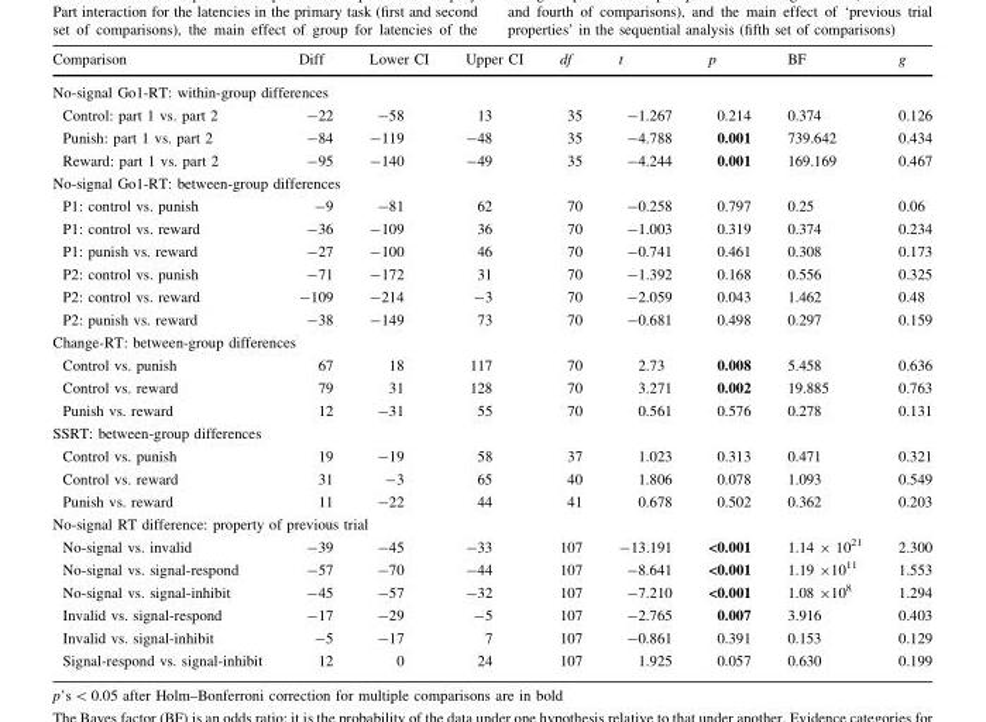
<table><thead><tr><td>Comparison</td><td>Diff</td><td>Lower CI</td><td>Upper CI</td><td>df</td><td>t</td><td>p</td><td>BF</td><td>g</td></tr></thead><tbody><tr><td colspan="9">No-signal Go1-RT: within-group differences</td></tr><tr><td>Control: part 1 vs. part 2</td><td>-22</td><td>-58</td><td>13</td><td>35</td><td>-1.267</td><td>0.214</td><td>0.374</td><td>0.126</td></tr><tr><td>Punish: part 1 vs. part 2</td><td>-84</td><td>-119</td><td>-48</td><td>35</td><td>-4.788</td><td>0.001</td><td>739.642</td><td>0.434</td></tr><tr><td>Reward: part 1 vs. part 2</td><td>-95</td><td>-140</td><td>-49</td><td>35</td><td>-4.244</td><td>0.001</td><td>169.169</td><td>0.467</td></tr><tr><td colspan="9">No-signal Go1-RT: between-group differences</td></tr><tr><td>P1: control vs. punish</td><td>-9</td><td>-81</td><td>62</td><td>70</td><td>-0.258</td><td>0.797</td><td>0.25</td><td>0.06</td></tr><tr><td>P1: control vs. reward</td><td>-36</td><td>-109</td><td>36</td><td>70</td><td>-1.003</td><td>0.319</td><td>0.374</td><td>0.234</td></tr><tr><td>P1: punish vs. reward</td><td>-27</td><td>-100</td><td>46</td><td>70</td><td>-0.741</td><td>0.461</td><td>0.308</td><td>0.173</td></tr><tr><td>P2: control vs. punish</td><td>-71</td><td>-172</td><td>31</td><td>70</td><td>-1.392</td><td>0.168</td><td>0.556</td><td>0.325</td></tr><tr><td>P2: control vs. reward</td><td>-109</td><td>-214</td><td>-3</td><td>70</td><td>-2.059</td><td>0.043</td><td>1.462</td><td>0.48</td></tr><tr><td>P2: punish vs. reward</td><td>-38</td><td>-149</td><td>73</td><td>70</td><td>-0.681</td><td>0.498</td><td>0.297</td><td>0.159</td></tr><tr><td colspan="9">Change-RT: between-group differences</td></tr><tr><td>Control vs. punish</td><td>67</td><td>18</td><td>117</td><td>70</td><td>2.73</td><td>0.008</td><td>5.458</td><td>0.636</td></tr><tr><td>Control vs. reward</td><td>79</td><td>31</td><td>128</td><td>70</td><td>3.271</td><td>0.002</td><td>19.885</td><td>0.763</td></tr><tr><td>Punish vs. reward</td><td>12</td><td>-31</td><td>55</td><td>70</td><td>0.561</td><td>0.576</td><td>0.278</td><td>0.131</td></tr><tr><td colspan="9">SSRT: between-group differences</td></tr><tr><td>Control vs. punish</td><td>19</td><td>-19</td><td>58</td><td>37</td><td>1.023</td><td>0.313</td><td>0.471</td><td>0.321</td></tr><tr><td>Control vs. reward</td><td>31</td><td>-3</td><td>65</td><td>40</td><td>1.806</td><td>0.078</td><td>1.093</td><td>0.549</td></tr><tr><td>Punish vs. reward</td><td>11</td><td>-22</td><td>44</td><td>41</td><td>0.678</td><td>0.502</td><td>0.362</td><td>0.203</td></tr><tr><td colspan="9">No-signal RT difference: property of previous trial</td></tr><tr><td>No-signal vs. invalid</td><td>-39</td><td>-45</td><td>-33</td><td>107</td><td>-13.191</td><td>&lt;0.001</td><td>1.14 × 10<sup>21</sup></td><td>2.300</td></tr><tr><td>No-signal vs. signal-respond</td><td>-57</td><td>-70</td><td>-44</td><td>107</td><td>-8.641</td><td>&lt;0.001</td><td>1.19 ×10<sup>11</sup></td><td>1.553</td></tr><tr><td>No-signal vs. signal-inhibit</td><td>-45</td><td>-57</td><td>-32</td><td>107</td><td>-7.210</td><td>&lt;0.001</td><td>1.08 ×10<sup>8</sup></td><td>1.294</td></tr><tr><td>Invalid vs. signal-respond</td><td>-17</td><td>-29</td><td>-5</td><td>107</td><td>-2.765</td><td>0.007</td><td>3.916</td><td>0.403</td></tr><tr><td>Invalid vs. signal-inhibit</td><td>-5</td><td>-17</td><td>7</td><td>107</td><td>-0.861</td><td>0.391</td><td>0.153</td><td>0.129</td></tr><tr><td>Signal-respond vs. signal-inhibit</td><td>12</td><td>0</td><td>24</td><td>107</td><td>1.925</td><td>0.057</td><td>0.630</td><td>0.199</td></tr></tbody></table>